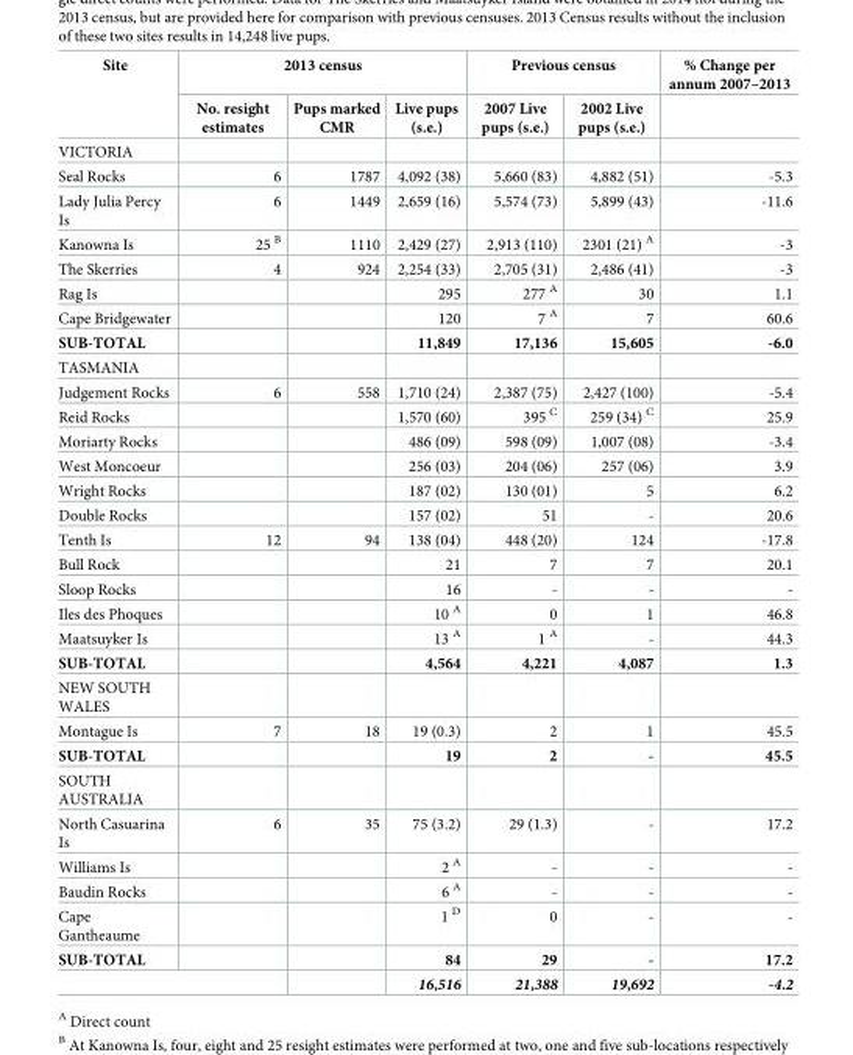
<table><thead><tr><td rowspan="2">Site</td><td colspan="3">2013 census</td><td colspan="2">Previous census</td><td rowspan="2">% Change per annum 2007–2013</td></tr><tr><td>No. resight estimates</td><td>Pups marked CMR</td><td>Live pups (s.e.)</td><td>2007 Live pups (s.e.)</td><td>2002 Live pups (s.e.)</td></tr></thead><tbody><tr><td colspan="7">VICTORIA</td></tr><tr><td>Seal Rocks</td><td>6</td><td>1787</td><td>4,092 (38)</td><td>5,660 (83)</td><td>4,882 (51)</td><td>-5.3</td></tr><tr><td>Lady Julia Percy Is</td><td>6</td><td>1449</td><td>2,659 (16)</td><td>5,574 (73)</td><td>5,899 (43)</td><td>-11.6</td></tr><tr><td>Kanowna Is</td><td>25 <sup>B</sup></td><td>1110</td><td>2,429 (27)</td><td>2,913 (110)</td><td>2301 (21) <sup>A</sup></td><td>-3</td></tr><tr><td>The Skerries</td><td>4</td><td>924</td><td>2,254 (33)</td><td>2,705 (31)</td><td>2,486 (41)</td><td>-3</td></tr><tr><td>Rag Is</td><td></td><td></td><td>295</td><td>277 <sup>A</sup></td><td>30</td><td>1.1</td></tr><tr><td>Cape Bridgewater</td><td></td><td></td><td>120</td><td>7 <sup>A</sup></td><td>7</td><td>60.6</td></tr><tr><td>SUB-TOTAL</td><td></td><td></td><td>11,849</td><td>17,136</td><td>15,605</td><td>-6.0</td></tr><tr><td colspan="7">TASMANIA</td></tr><tr><td>Judgement Rocks</td><td>6</td><td>558</td><td>1,710 (24)</td><td>2,387 (75)</td><td>2,427 (100)</td><td>-5.4</td></tr><tr><td>Reid Rocks</td><td></td><td></td><td>1,570 (60)</td><td>395 <sup>C</sup></td><td>259 (34) <sup>C</sup></td><td>25.9</td></tr><tr><td>Moriarty Rocks</td><td></td><td></td><td>486 (09)</td><td>598 (09)</td><td>1,007 (08)</td><td>-3.4</td></tr><tr><td>West Moncoeur</td><td></td><td></td><td>256 (03)</td><td>204 (06)</td><td>257 (06)</td><td>3.9</td></tr><tr><td>Wright Rocks</td><td></td><td></td><td>187 (02)</td><td>130 (01)</td><td>5</td><td>6.2</td></tr><tr><td>Double Rocks</td><td></td><td></td><td>157 (02)</td><td>51</td><td>-</td><td>20.6</td></tr><tr><td>Tenth Is</td><td>12</td><td>94</td><td>138 (04)</td><td>448 (20)</td><td>124</td><td>-17.8</td></tr><tr><td>Bull Rock</td><td></td><td></td><td>21</td><td>7</td><td>7</td><td>20.1</td></tr><tr><td>Sloop Rocks</td><td></td><td></td><td>16</td><td>-</td><td>-</td><td>-</td></tr><tr><td>Iles des Phoques</td><td></td><td></td><td>10 <sup>A</sup></td><td>0</td><td>1</td><td>46.8</td></tr><tr><td>Maatsuyker Is</td><td></td><td></td><td>13 <sup>A</sup></td><td>1 <sup>A</sup></td><td>-</td><td>44.3</td></tr><tr><td>SUB-TOTAL</td><td></td><td></td><td>4,564</td><td>4,221</td><td>4,087</td><td>1.3</td></tr><tr><td colspan="7">NEW SOUTH WALES</td></tr><tr><td>Montague Is</td><td>7</td><td>18</td><td>19 (0.3)</td><td>2</td><td>1</td><td>45.5</td></tr><tr><td>SUB-TOTAL</td><td></td><td></td><td>19</td><td>2</td><td>-</td><td>45.5</td></tr><tr><td colspan="7">SOUTH AUSTRALIA</td></tr><tr><td>North Casuarina Is</td><td>6</td><td>35</td><td>75 (3.2)</td><td>29 (1.3)</td><td>-</td><td>17.2</td></tr><tr><td>Williams Is</td><td></td><td></td><td>2 <sup>A</sup></td><td>-</td><td>-</td><td>-</td></tr><tr><td>Baudin Rocks</td><td></td><td></td><td>6 <sup>A</sup></td><td>-</td><td>-</td><td>-</td></tr><tr><td>Cape Gantheaume</td><td></td><td></td><td>1 <sup>D</sup></td><td>0</td><td>-</td><td>-</td></tr><tr><td>SUB-TOTAL</td><td></td><td></td><td>84</td><td>29</td><td>-</td><td>17.2</td></tr><tr><td colspan="2"></td><td></td><td>16,516</td><td>21,388</td><td>19,692</td><td>-4.2</td></tr></tbody></table>